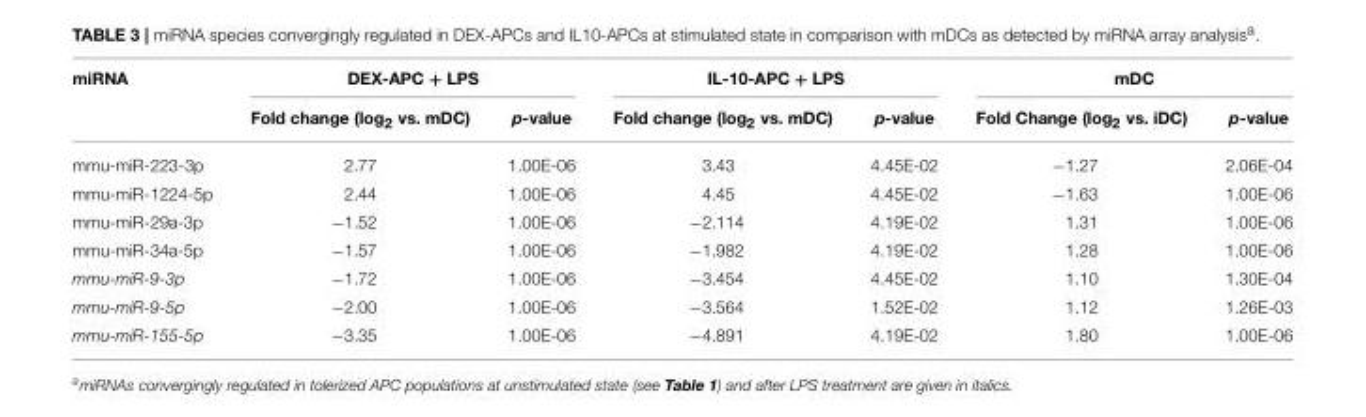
<table><thead><tr><td rowspan="2">miRNA</td><td colspan="2">DEX-APC + LPS</td><td colspan="2">IL-10-APC + LPS</td><td colspan="2">mDC</td></tr><tr><td>Fold change (log<sub>2</sub> vs. mDC)</td><td>p-value</td><td>Fold change (log<sub>2</sub> vs. mDC)</td><td>p-value</td><td>Fold Change (log<sub>2</sub> vs. iDC)</td><td>p-value</td></tr></thead><tbody><tr><td>mmu-miR-223-3p</td><td>2.77</td><td>1.00E-06</td><td>3.43</td><td>4.45E-02</td><td>−1.27</td><td>2.06E-04</td></tr><tr><td>mmu-miR-1224-5p</td><td>2.44</td><td>1.00E-06</td><td>4.45</td><td>4.45E-02</td><td>−1.63</td><td>1.00E-06</td></tr><tr><td>mmu-miR-29a-3p</td><td>−1.52</td><td>1.00E-06</td><td>−2.114</td><td>4.19E-02</td><td>1.31</td><td>1.00E-06</td></tr><tr><td>mmu-miR-34a-5p</td><td>−1.57</td><td>1.00E-06</td><td>−1.982</td><td>4.19E-02</td><td>1.28</td><td>1.00E-06</td></tr><tr><td>mmu-miR-9-3p</td><td>−1.72</td><td>1.00E-06</td><td>−3.454</td><td>4.45E-02</td><td>1.10</td><td>1.30E-04</td></tr><tr><td>mmu-miR-9-5p</td><td>−2.00</td><td>1.00E-06</td><td>−3.564</td><td>1.52E-02</td><td>1.12</td><td>1.26E-03</td></tr><tr><td>mmu-miR-155-5p</td><td>−3.35</td><td>1.00E-06</td><td>−4.891</td><td>4.19E-02</td><td>1.80</td><td>1.00E-06</td></tr></tbody></table>